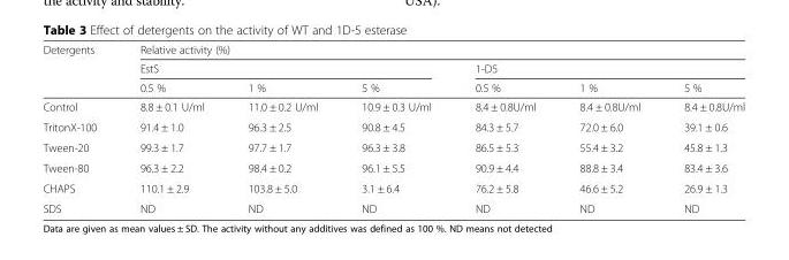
<table><thead><tr><td rowspan="3">Detergents</td><td colspan="6">Relative activity (%)</td></tr><tr><td colspan="3">EstS</td><td colspan="3">1-D5</td></tr><tr><td>0.5 %</td><td>1 %</td><td>5 %</td><td>0.5 %</td><td>1 %</td><td>5 %</td></tr></thead><tbody><tr><td>Control</td><td>8.8 ± 0.1 U/ml</td><td>11.0 ± 0.2 U/ml</td><td>10.9 ± 0.3 U/ml</td><td>8.4 ± 0.8U/ml</td><td>8.4 ± 0.8U/ml</td><td>8.4 ± 0.8U/ml</td></tr><tr><td>TritonX-100</td><td>91.4 ± 1.0</td><td>96.3 ± 2.5</td><td>90.8 ± 4.5</td><td>84.3 ± 5.7</td><td>72.0 ± 6.0</td><td>39.1 ± 0.6</td></tr><tr><td>Tween-20</td><td>99.3 ± 1.7</td><td>97.7 ± 1.7</td><td>96.3 ± 3.8</td><td>86.5 ± 5.3</td><td>55.4 ± 3.2</td><td>45.8 ± 1.3</td></tr><tr><td>Tween-80</td><td>96.3 ± 2.2</td><td>98.4 ± 0.2</td><td>96.1 ± 5.5</td><td>90.9 ± 4.4</td><td>88.8 ± 3.4</td><td>83.4 ± 3.6</td></tr><tr><td>CHAPS</td><td>110.1 ± 2.9</td><td>103.8 ± 5.0</td><td>3.1 ± 6.4</td><td>76.2 ± 5.8</td><td>46.6 ± 5.2</td><td>26.9 ± 1.3</td></tr><tr><td>SDS</td><td>ND</td><td>ND</td><td>ND</td><td>ND</td><td>ND</td><td>ND</td></tr></tbody></table>